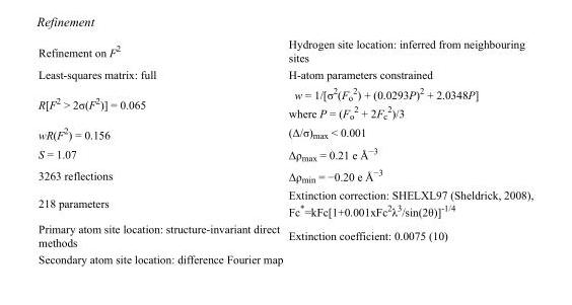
<table><tbody><tr><td>Refinement on F<sup>2</sup></td><td>Hydrogen site location: inferred from neighbouring sites</td></tr><tr><td>Least-squares matrix: full</td><td>H-atom parameters constrained</td></tr><tr><td>R[F<sup>2</sup> &gt; 2σ(F<sup>2</sup>)] = 0.065</td><td>w = 1/[σ<sup>2</sup>(F<sub>o</sub> <sup>2</sup>) + (0.0293P)<sup>2</sup> + 2.0348P] where P = (F<sub>o</sub> <sup>2</sup> + 2F<sub>c</sub> <sup>2</sup>)/3</td></tr><tr><td>wR(F<sup>2</sup>) = 0.156</td><td>(Δ/σ)<sub>max</sub> &lt; 0.001</td></tr><tr><td>S = 1.07</td><td>Δρ<sub>max</sub> = 0.21 e Å<sup>−3</sup></td></tr><tr><td>3263 reflections</td><td>Δρ<sub>min</sub> = −0.20 e Å<sup>−3</sup></td></tr><tr><td>218 parameters</td><td>Extinction correction: SHELXL97 (Sheldrick, 2008), Fc*=kFc[1+0.001xFc<sup>2</sup>λ<sup>3</sup>/sin(2θ)]<sup>-1/4</sup></td></tr><tr><td>Primary atom site location: structure-invariant direct methods</td><td>Extinction coefficient: 0.0075 (10)</td></tr><tr><td>Secondary atom site location: difference Fourier map</td><td></td></tr></tbody></table>